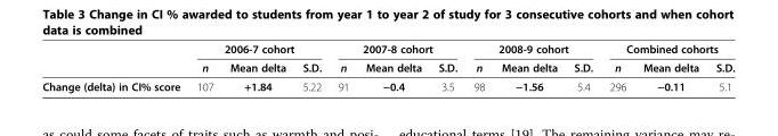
<table><thead><tr><td rowspan="2"></td><td colspan="3">2006-7 cohort</td><td colspan="3">2007-8 cohort</td><td colspan="3">2008-9 cohort</td><td colspan="3">Combined cohorts</td></tr><tr><td>n</td><td>Mean delta</td><td>S.D.</td><td>n</td><td>Mean delta</td><td>S.D.</td><td>n</td><td>Mean delta</td><td>S.D.</td><td>n</td><td>Mean delta</td><td>S.D.</td></tr></thead><tbody><tr><td>Change (delta) in CI% score</td><td>107</td><td>+1.84</td><td>5.22</td><td>91</td><td>−0.4</td><td>3.5</td><td>98</td><td>−1.56</td><td>5.4</td><td>296</td><td>−0.11</td><td>5.1</td></tr></tbody></table>